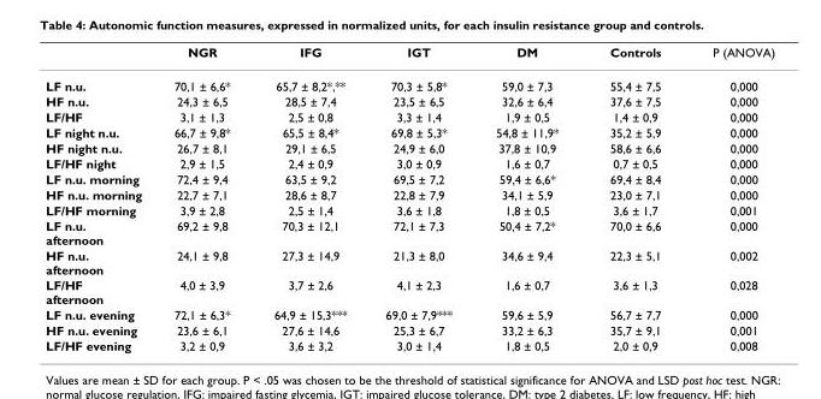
<table><thead><tr><td></td><td>NGR</td><td>IFG</td><td>IGT</td><td>DM</td><td>Controls</td><td>P (ANOVA)</td></tr></thead><tbody><tr><td>LF n.u.</td><td>70,1 ± 6,6*</td><td>65,7 ± 8,2*,**</td><td>70,3 ± 5,8*</td><td>59,0 ± 7,3</td><td>55,4 ± 7,5</td><td>0,000</td></tr><tr><td>HF n.u.</td><td>24,3 ± 6,5</td><td>28,5 ± 7,4</td><td>23,5 ± 6,5</td><td>32,6 ± 6,4</td><td>37,6 ± 7,5</td><td>0,000</td></tr><tr><td>LF/HF</td><td>3,1 ± 1,3</td><td>2,5 ± 0,8</td><td>3,3 ± 1,4</td><td>1,9 ± 0,5</td><td>1,4 ± 0,9</td><td>0,000</td></tr><tr><td>LF night n.u.</td><td>66,7 ± 9,8*</td><td>65,5 ± 8,4*</td><td>69,8 ± 5,3*</td><td>54,8 ± 11,9*</td><td>35,2 ± 5,9</td><td>0,000</td></tr><tr><td>HF night n.u.</td><td>26,7 ± 8,1</td><td>29,1 ± 6,5</td><td>24,9 ± 6,0</td><td>37,8 ± 10,9</td><td>58,6 ± 6,6</td><td>0,000</td></tr><tr><td>LF/HF night</td><td>2,9 ± 1,5</td><td>2,4 ± 0,9</td><td>3,0 ± 0,9</td><td>1,6 ± 0,7</td><td>0,7 ± 0,5</td><td>0,000</td></tr><tr><td>LF n.u. morning</td><td>72,4 ± 9,4</td><td>63,5 ± 9,2</td><td>69,5 ± 7,2</td><td>59,4 ± 6,6*</td><td>69,4 ± 8,4</td><td>0,000</td></tr><tr><td>HF n.u. morning</td><td>22,7 ± 7,1</td><td>28,6 ± 8,7</td><td>22,8 ± 7,9</td><td>34,1 ± 5,9</td><td>23,0 ± 7,1</td><td>0,000</td></tr><tr><td>LF/HF morning</td><td>3,9 ± 2,8</td><td>2,5 ± 1,4</td><td>3,6 ± 1,8</td><td>1,8 ± 0,5</td><td>3,6 ± 1,7</td><td>0,001</td></tr><tr><td>LF n.u. afternoon</td><td>69,2 ± 9,8</td><td>70,3 ± 12,1</td><td>72,1 ± 7,3</td><td>50,4 ± 7,2*</td><td>70,0 ± 6,6</td><td>0,000</td></tr><tr><td>HF n.u. afternoon</td><td>24,1 ± 9,8</td><td>27,3 ± 14,9</td><td>21,3 ± 8,0</td><td>34,6 ± 9,4</td><td>22,3 ± 5,1</td><td>0,002</td></tr><tr><td>LF/HF afternoon</td><td>4,0 ± 3,9</td><td>3,7 ± 2,6</td><td>4,1 ± 2,3</td><td>1,6 ± 0,7</td><td>3,6 ± 1,3</td><td>0,028</td></tr><tr><td>LF n.u. evening</td><td>72,1 ± 6,3*</td><td>64,9 ± 15,3***</td><td>69,0 ± 7,9***</td><td>59,6 ± 5,9</td><td>56,7 ± 7,7</td><td>0,000</td></tr><tr><td>HF n.u. evening</td><td>23,6 ± 6,1</td><td>27,6 ± 14,6</td><td>25,3 ± 6,7</td><td>33,2 ± 6,3</td><td>35,7 ± 9,1</td><td>0,001</td></tr><tr><td>LF/HF evening</td><td>3,2 ± 0,9</td><td>3,6 ± 3,2</td><td>3,0 ± 1,4</td><td>1,8 ± 0,5</td><td>2,0 ± 0,9</td><td>0,008</td></tr></tbody></table>